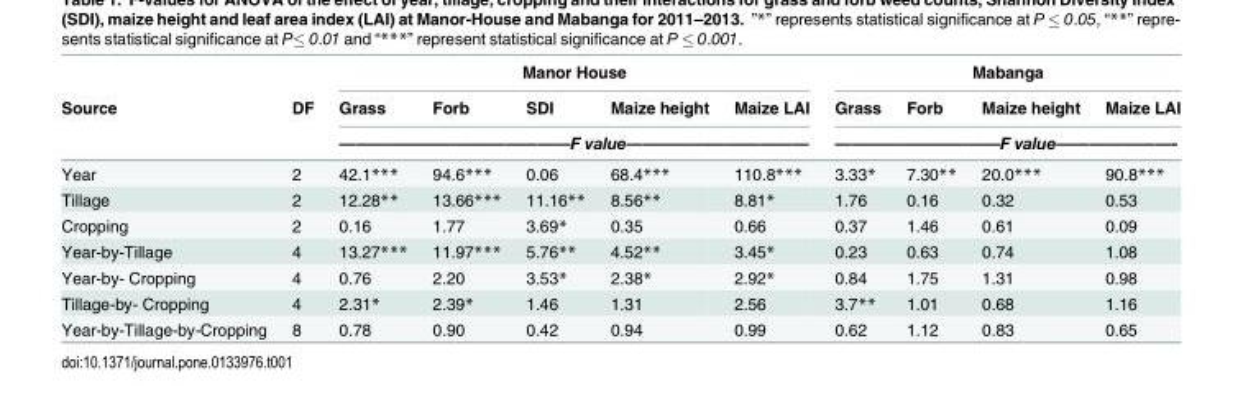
<table><thead><tr><td rowspan="3">Source</td><td rowspan="3">DF</td><td colspan="5">Manor House</td><td colspan="4">Mabanga</td></tr><tr><td>Grass</td><td>Forb</td><td>SDI</td><td>Maize height</td><td>Maize LAI</td><td>Grass</td><td>Forb</td><td>Maize height</td><td>Maize LAI</td></tr><tr><td colspan="5">——————————————F value———————————</td><td colspan="4">——————————F value———————-</td></tr></thead><tbody><tr><td>Year</td><td>2</td><td>42.1***</td><td>94.6***</td><td>0.06</td><td>68.4***</td><td>110.8***</td><td>3.33*</td><td>7.30**</td><td>20.0***</td><td>90.8***</td></tr><tr><td>Tillage</td><td>2</td><td>12.28**</td><td>13.66***</td><td>11.16**</td><td>8.56**</td><td>8.81*</td><td>1.76</td><td>0.16</td><td>0.32</td><td>0.53</td></tr><tr><td>Cropping</td><td>2</td><td>0.16</td><td>1.77</td><td>3.69*</td><td>0.35</td><td>0.66</td><td>0.37</td><td>1.46</td><td>0.61</td><td>0.09</td></tr><tr><td>Year-by-Tillage</td><td>4</td><td>13.27***</td><td>11.97***</td><td>5.76**</td><td>4.52**</td><td>3.45*</td><td>0.23</td><td>0.63</td><td>0.74</td><td>1.08</td></tr><tr><td>Year-by- Cropping</td><td>4</td><td>0.76</td><td>2.20</td><td>3.53*</td><td>2.38*</td><td>2.92*</td><td>0.84</td><td>1.75</td><td>1.31</td><td>0.98</td></tr><tr><td>Tillage-by- Cropping</td><td>4</td><td>2.31*</td><td>2.39*</td><td>1.46</td><td>1.31</td><td>2.56</td><td>3.7**</td><td>1.01</td><td>0.68</td><td>1.16</td></tr><tr><td>Year-by-Tillage-by-Cropping</td><td>8</td><td>0.78</td><td>0.90</td><td>0.42</td><td>0.94</td><td>0.99</td><td>0.62</td><td>1.12</td><td>0.83</td><td>0.65</td></tr></tbody></table>